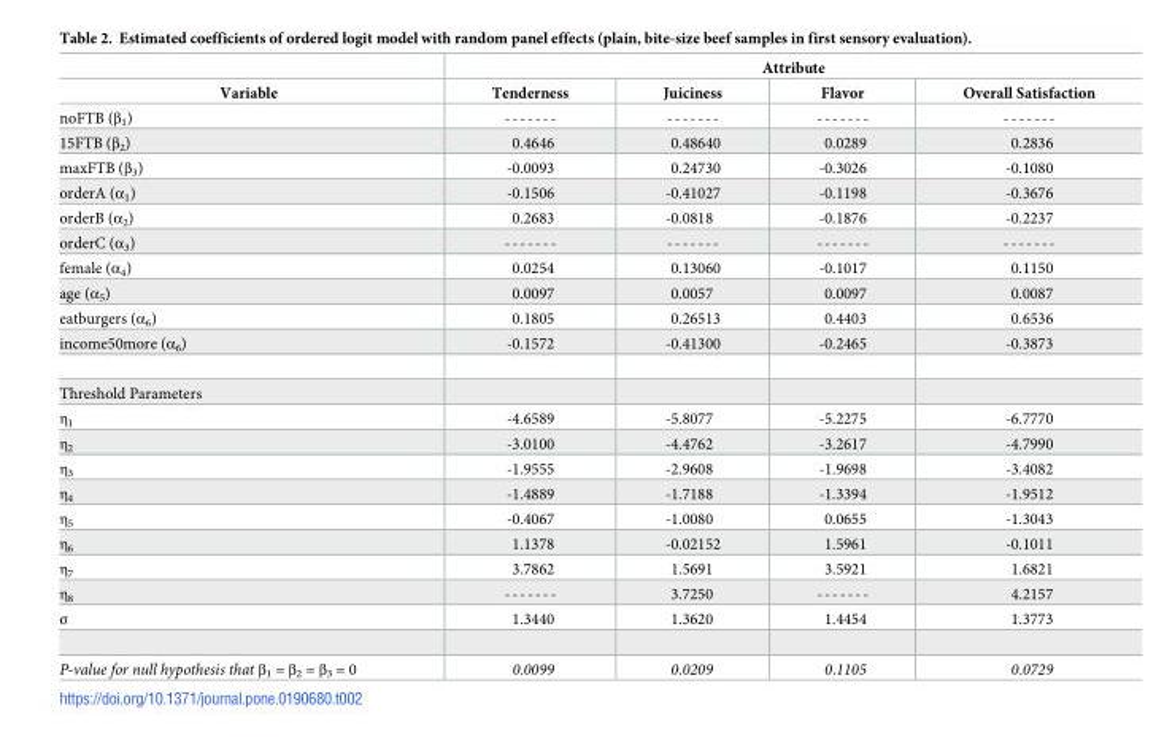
<table><thead><tr><td rowspan="2">Variable</td><td colspan="4">Attribute</td></tr><tr><td>Tenderness</td><td>Juiciness</td><td>Flavor</td><td>Overall Satisfaction</td></tr></thead><tbody><tr><td>noFTB (β<sub>1</sub>)</td><td>-------</td><td>-------</td><td>-------</td><td>-------</td></tr><tr><td>15FTB (β<sub>2</sub>)</td><td>0.4646</td><td>0.48640</td><td>0.0289</td><td>0.2836</td></tr><tr><td>maxFTB (β<sub>3</sub>)</td><td>-0.0093</td><td>0.24730</td><td>-0.3026</td><td>-0.1080</td></tr><tr><td>orderA (α<sub>1</sub>)</td><td>-0.1506</td><td>-0.41027</td><td>-0.1198</td><td>-0.3676</td></tr><tr><td>orderB (α<sub>2</sub>)</td><td>0.2683</td><td>-0.0818</td><td>-0.1876</td><td>-0.2237</td></tr><tr><td>orderC (α<sub>3</sub>)</td><td>-------</td><td>-------</td><td>-------</td><td>-------</td></tr><tr><td>female (α<sub>4</sub>)</td><td>0.0254</td><td>0.13060</td><td>-0.1017</td><td>0.1150</td></tr><tr><td>age (α<sub>5</sub>)</td><td>0.0097</td><td>0.0057</td><td>0.0097</td><td>0.0087</td></tr><tr><td>eatburgers (α<sub>6</sub>)</td><td>0.1805</td><td>0.26513</td><td>0.4403</td><td>0.6536</td></tr><tr><td>income50more (α<sub>6</sub>)</td><td>-0.1572</td><td>-0.41300</td><td>-0.2465</td><td>-0.3873</td></tr><tr><td colspan="5">Threshold Parameters</td></tr><tr><td>η<sub>1</sub></td><td>-4.6589</td><td>-5.8077</td><td>-5.2275</td><td>-6.7770</td></tr><tr><td>η<sub>2</sub></td><td>-3.0100</td><td>-4.4762</td><td>-3.2617</td><td>-4.7990</td></tr><tr><td>η<sub>3</sub></td><td>-1.9555</td><td>-2.9608</td><td>-1.9698</td><td>-3.4082</td></tr><tr><td>η<sub>4</sub></td><td>-1.4889</td><td>-1.7188</td><td>-1.3394</td><td>-1.9512</td></tr><tr><td>η<sub>5</sub></td><td>-0.4067</td><td>-1.0080</td><td>0.0655</td><td>-1.3043</td></tr><tr><td>η<sub>6</sub></td><td>1.1378</td><td>-0.02152</td><td>1.5961</td><td>-0.1011</td></tr><tr><td>η<sub>7</sub></td><td>3.7862</td><td>1.5691</td><td>3.5921</td><td>1.6821</td></tr><tr><td>η<sub>8</sub></td><td>-------</td><td>3.7250</td><td>-------</td><td>4.2157</td></tr><tr><td>σ</td><td>1.3440</td><td>1.3620</td><td>1.4454</td><td>1.3773</td></tr><tr><td>P-value for null hypothesis that β<sub>1</sub> = β<sub>2</sub> = β<sub>3</sub> = 0</td><td>0.0099</td><td>0.0209</td><td>0.1105</td><td>0.0729</td></tr></tbody></table>